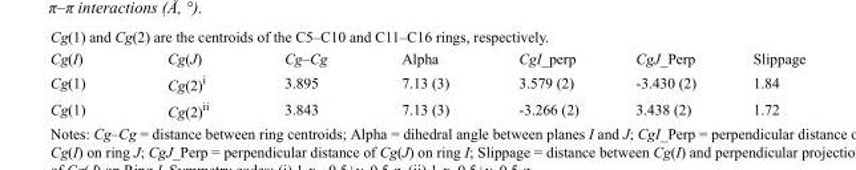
<table><thead><tr><td>Cg(I)</td><td>Cg(J)</td><td>Cg–Cg</td><td>Alpha</td><td>CgI_perp</td><td>CgJ_Perp</td><td>Slippage</td></tr></thead><tbody><tr><td>Cg(1)</td><td>Cg(2)<sup>i</sup></td><td>3.895</td><td>7.13 (3)</td><td>3.579 (2)</td><td>-3.430 (2)</td><td>1.84</td></tr><tr><td>Cg(1)</td><td>Cg(2)<sup>ii</sup></td><td>3.843</td><td>7.13 (3)</td><td>-3.266 (2)</td><td>3.438 (2)</td><td>1.72</td></tr></tbody></table>